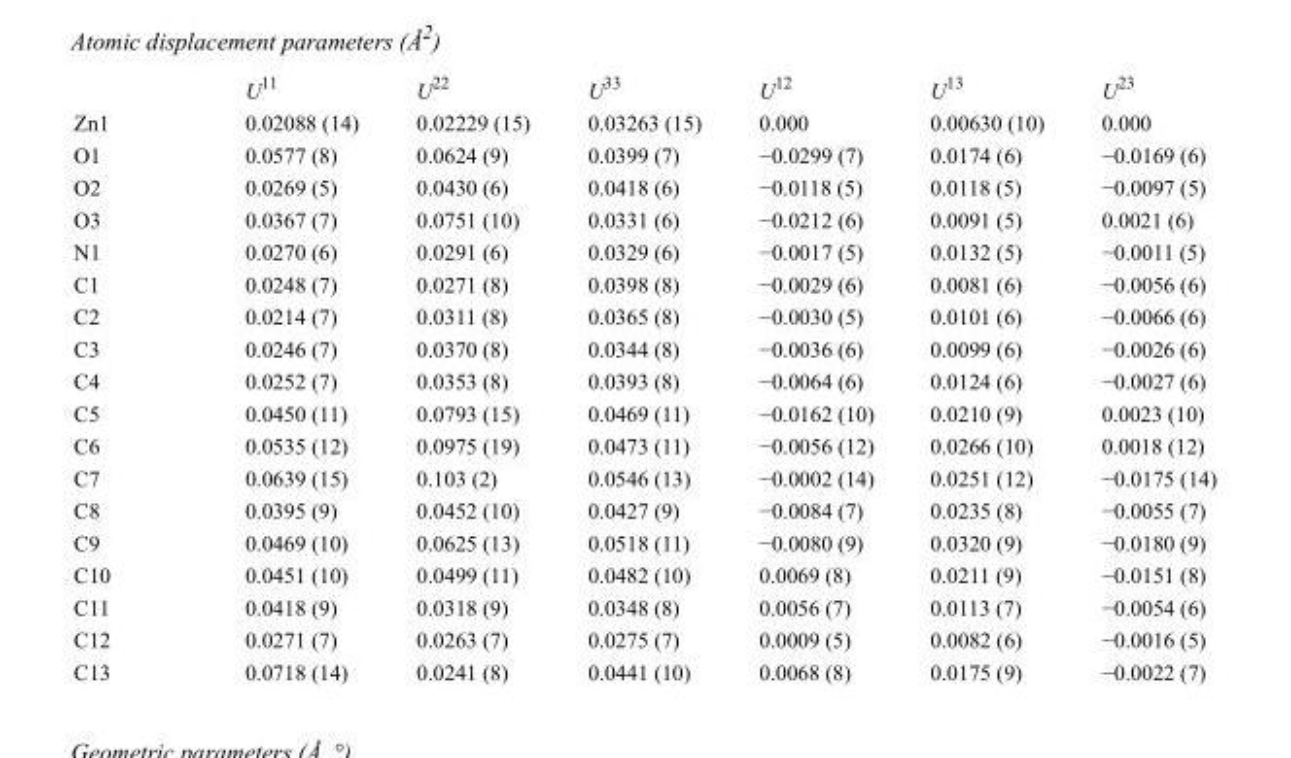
<table><thead><tr><td></td><td>U<sup>11</sup></td><td>U<sup>22</sup></td><td>U<sup>33</sup></td><td>U<sup>12</sup></td><td>U<sup>13</sup></td><td>U<sup>23</sup></td></tr></thead><tbody><tr><td>Zn1</td><td>0.02088 (14)</td><td>0.02229 (15)</td><td>0.03263 (15)</td><td>0.000</td><td>0.00630 (10)</td><td>0.000</td></tr><tr><td>O1</td><td>0.0577 (8)</td><td>0.0624 (9)</td><td>0.0399 (7)</td><td>−0.0299 (7)</td><td>0.0174 (6)</td><td>−0.0169 (6)</td></tr><tr><td>O2</td><td>0.0269 (5)</td><td>0.0430 (6)</td><td>0.0418 (6)</td><td>−0.0118 (5)</td><td>0.0118 (5)</td><td>−0.0097 (5)</td></tr><tr><td>O3</td><td>0.0367 (7)</td><td>0.0751 (10)</td><td>0.0331 (6)</td><td>−0.0212 (6)</td><td>0.0091 (5)</td><td>0.0021 (6)</td></tr><tr><td>N1</td><td>0.0270 (6)</td><td>0.0291 (6)</td><td>0.0329 (6)</td><td>−0.0017 (5)</td><td>0.0132 (5)</td><td>−0.0011 (5)</td></tr><tr><td>C1</td><td>0.0248 (7)</td><td>0.0271 (8)</td><td>0.0398 (8)</td><td>−0.0029 (6)</td><td>0.0081 (6)</td><td>−0.0056 (6)</td></tr><tr><td>C2</td><td>0.0214 (7)</td><td>0.0311 (8)</td><td>0.0365 (8)</td><td>−0.0030 (5)</td><td>0.0101 (6)</td><td>−0.0066 (6)</td></tr><tr><td>C3</td><td>0.0246 (7)</td><td>0.0370 (8)</td><td>0.0344 (8)</td><td>−0.0036 (6)</td><td>0.0099 (6)</td><td>−0.0026 (6)</td></tr><tr><td>C4</td><td>0.0252 (7)</td><td>0.0353 (8)</td><td>0.0393 (8)</td><td>−0.0064 (6)</td><td>0.0124 (6)</td><td>−0.0027 (6)</td></tr><tr><td>C5</td><td>0.0450 (11)</td><td>0.0793 (15)</td><td>0.0469 (11)</td><td>−0.0162 (10)</td><td>0.0210 (9)</td><td>0.0023 (10)</td></tr><tr><td>C6</td><td>0.0535 (12)</td><td>0.0975 (19)</td><td>0.0473 (11)</td><td>−0.0056 (12)</td><td>0.0266 (10)</td><td>0.0018 (12)</td></tr><tr><td>C7</td><td>0.0639 (15)</td><td>0.103 (2)</td><td>0.0546 (13)</td><td>−0.0002 (14)</td><td>0.0251 (12)</td><td>−0.0175 (14)</td></tr><tr><td>C8</td><td>0.0395 (9)</td><td>0.0452 (10)</td><td>0.0427 (9)</td><td>−0.0084 (7)</td><td>0.0235 (8)</td><td>−0.0055 (7)</td></tr><tr><td>C9</td><td>0.0469 (10)</td><td>0.0625 (13)</td><td>0.0518 (11)</td><td>−0.0080 (9)</td><td>0.0320 (9)</td><td>−0.0180 (9)</td></tr><tr><td>C10</td><td>0.0451 (10)</td><td>0.0499 (11)</td><td>0.0482 (10)</td><td>0.0069 (8)</td><td>0.0211 (9)</td><td>−0.0151 (8)</td></tr><tr><td>C11</td><td>0.0418 (9)</td><td>0.0318 (9)</td><td>0.0348 (8)</td><td>0.0056 (7)</td><td>0.0113 (7)</td><td>−0.0054 (6)</td></tr><tr><td>C12</td><td>0.0271 (7)</td><td>0.0263 (7)</td><td>0.0275 (7)</td><td>0.0009 (5)</td><td>0.0082 (6)</td><td>−0.0016 (5)</td></tr><tr><td>C13</td><td>0.0718 (14)</td><td>0.0241 (8)</td><td>0.0441 (10)</td><td>0.0068 (8)</td><td>0.0175 (9)</td><td>−0.0022 (7)</td></tr></tbody></table>